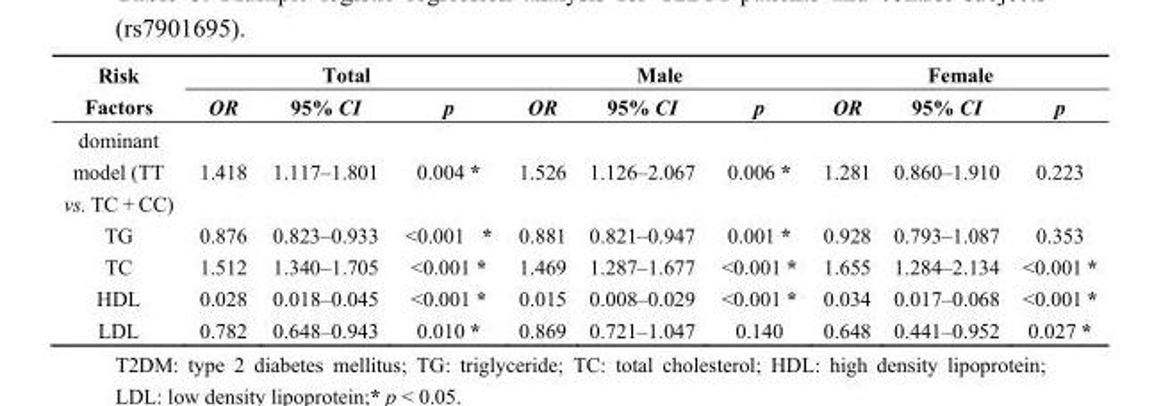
<table><thead><tr><td rowspan="2">Risk Factors</td><td colspan="3">Total</td><td colspan="3">Male</td><td colspan="3">Female</td></tr><tr><td>OR</td><td>95% CI</td><td>p</td><td>OR</td><td>95% CI</td><td>p</td><td>OR</td><td>95% CI</td><td>p</td></tr></thead><tbody><tr><td>dominant model (TT vs. TC + CC)</td><td>1.418</td><td>1.117–1.801</td><td>0.004 *</td><td>1.526</td><td>1.126–2.067</td><td>0.006 *</td><td>1.281</td><td>0.860–1.910</td><td>0.223</td></tr><tr><td>TG</td><td>0.876</td><td>0.823–0.933</td><td>&lt;0.001 *</td><td>0.881</td><td>0.821–0.947</td><td>0.001 *</td><td>0.928</td><td>0.793–1.087</td><td>0.353</td></tr><tr><td>TC</td><td>1.512</td><td>1.340–1.705</td><td>&lt;0.001 *</td><td>1.469</td><td>1.287–1.677</td><td>&lt;0.001 *</td><td>1.655</td><td>1.284–2.134</td><td>&lt;0.001 *</td></tr><tr><td>HDL</td><td>0.028</td><td>0.018–0.045</td><td>&lt;0.001 *</td><td>0.015</td><td>0.008–0.029</td><td>&lt;0.001 *</td><td>0.034</td><td>0.017–0.068</td><td>&lt;0.001 *</td></tr><tr><td>LDL</td><td>0.782</td><td>0.648–0.943</td><td>0.010 *</td><td>0.869</td><td>0.721–1.047</td><td>0.140</td><td>0.648</td><td>0.441–0.952</td><td>0.027 *</td></tr></tbody></table>